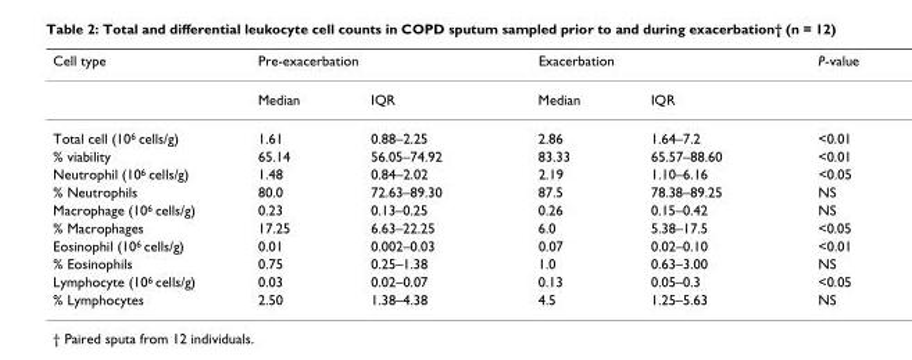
<table><thead><tr><td rowspan="2">Cell type</td><td colspan="2">Pre-exacerbation</td><td colspan="2">Exacerbation</td><td rowspan="2">P-value</td></tr><tr><td>Median</td><td>IQR</td><td>Median</td><td>IQR</td></tr></thead><tbody><tr><td>Total cell (10<sup>6</sup> cells/g)</td><td>1.61</td><td>0.88–2.25</td><td>2.86</td><td>1.64–7.2</td><td>&lt;0.01</td></tr><tr><td>% viability</td><td>65.14</td><td>56.05–74.92</td><td>83.33</td><td>65.57–88.60</td><td>&lt;0.01</td></tr><tr><td>Neutrophil (10<sup>6</sup> cells/g)</td><td>1.48</td><td>0.84–2.02</td><td>2.19</td><td>1.10–6.16</td><td>&lt;0.05</td></tr><tr><td>% Neutrophils</td><td>80.0</td><td>72.63–89.30</td><td>87.5</td><td>78.38–89.25</td><td>NS</td></tr><tr><td>Macrophage (10<sup>6</sup> cells/g)</td><td>0.23</td><td>0.13–0.25</td><td>0.26</td><td>0.15–0.42</td><td>NS</td></tr><tr><td>% Macrophages</td><td>17.25</td><td>6.63–22.25</td><td>6.0</td><td>5.38–17.5</td><td>&lt;0.05</td></tr><tr><td>Eosinophil (10<sup>6</sup> cells/g)</td><td>0.01</td><td>0.002–0.03</td><td>0.07</td><td>0.02–0.10</td><td>&lt;0.01</td></tr><tr><td>% Eosinophils</td><td>0.75</td><td>0.25–1.38</td><td>1.0</td><td>0.63–3.00</td><td>NS</td></tr><tr><td>Lymphocyte (10<sup>6</sup> cells/g)</td><td>0.03</td><td>0.02–0.07</td><td>0.13</td><td>0.05–0.3</td><td>&lt;0.05</td></tr><tr><td>% Lymphocytes</td><td>2.50</td><td>1.38–4.38</td><td>4.5</td><td>1.25–5.63</td><td>NS</td></tr></tbody></table>